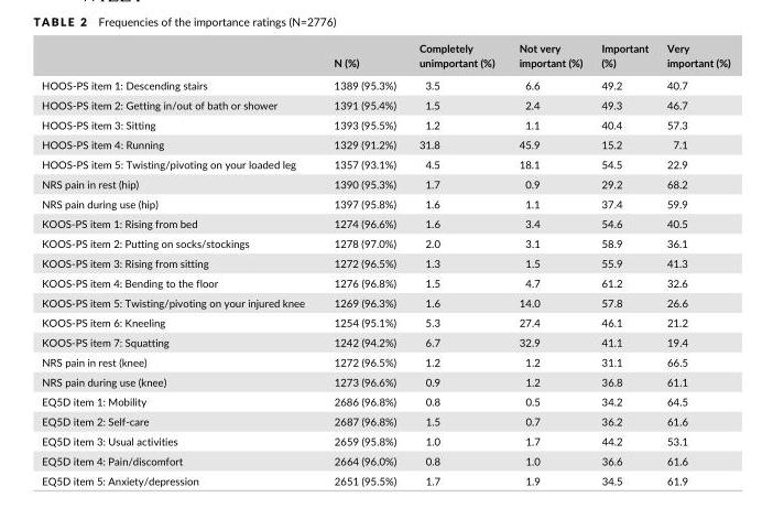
<table><thead><tr><td></td><td>N (%)</td><td>Completely unimportant (%)</td><td>Not very important (%)</td><td>Important (%)</td><td>Very important (%)</td></tr></thead><tbody><tr><td>HOOS- PS item 1: Descending stairs</td><td>1389 (95.3%)</td><td>3.5</td><td>6.6</td><td>49.2</td><td>40.7</td></tr><tr><td>HOOS- PS item 2: Getting in/out of bath or shower</td><td>1391 (95.4%)</td><td>1.5</td><td>2.4</td><td>49.3</td><td>46.7</td></tr><tr><td>HOOS- PS item 3: Sitting</td><td>1393 (95.5%)</td><td>1.2</td><td>1.1</td><td>40.4</td><td>57.3</td></tr><tr><td>HOOS- PS item 4: Running</td><td>1329 (91.2%)</td><td>31.8</td><td>45.9</td><td>15.2</td><td>7.1</td></tr><tr><td>HOOS- PS item 5: Twisting/pivoting on your loaded leg</td><td>1357 (93.1%)</td><td>4.5</td><td>18.1</td><td>54.5</td><td>22.9</td></tr><tr><td>NRS pain in rest (hip)</td><td>1390 (95.3%)</td><td>1.7</td><td>0.9</td><td>29.2</td><td>68.2</td></tr><tr><td>NRS pain during use (hip)</td><td>1397 (95.8%)</td><td>1.6</td><td>1.1</td><td>37.4</td><td>59.9</td></tr><tr><td>KOOS- PS item 1: Rising from bed</td><td>1274 (96.6%)</td><td>1.6</td><td>3.4</td><td>54.6</td><td>40.5</td></tr><tr><td>KOOS- PS item 2: Putting on socks/stockings</td><td>1278 (97.0%)</td><td>2.0</td><td>3.1</td><td>58.9</td><td>36.1</td></tr><tr><td>KOOS- PS item 3: Rising from sitting</td><td>1272 (96.5%)</td><td>1.3</td><td>1.5</td><td>55.9</td><td>41.3</td></tr><tr><td>KOOS- PS item 4: Bending to the floor</td><td>1276 (96.8%)</td><td>1.5</td><td>4.7</td><td>61.2</td><td>32.6</td></tr><tr><td>KOOS- PS item 5: Twisting/pivoting on your injured knee</td><td>1269 (96.3%)</td><td>1.6</td><td>14.0</td><td>57.8</td><td>26.6</td></tr><tr><td>KOOS- PS item 6: Kneeling</td><td>1254 (95.1%)</td><td>5.3</td><td>27.4</td><td>46.1</td><td>21.2</td></tr><tr><td>KOOS- PS item 7: Squatting</td><td>1242 (94.2%)</td><td>6.7</td><td>32.9</td><td>41.1</td><td>19.4</td></tr><tr><td>NRS pain in rest (knee)</td><td>1272 (96.5%)</td><td>1.2</td><td>1.2</td><td>31.1</td><td>66.5</td></tr><tr><td>NRS pain during use (knee)</td><td>1273 (96.6%)</td><td>0.9</td><td>1.2</td><td>36.8</td><td>61.1</td></tr><tr><td>EQ5D item 1: Mobility</td><td>2686 (96.8%)</td><td>0.8</td><td>0.5</td><td>34.2</td><td>64.5</td></tr><tr><td>EQ5D item 2: Self- care</td><td>2687 (96.8%)</td><td>1.5</td><td>0.7</td><td>36.2</td><td>61.6</td></tr><tr><td>EQ5D item 3: Usual activities</td><td>2659 (95.8%)</td><td>1.0</td><td>1.7</td><td>44.2</td><td>53.1</td></tr><tr><td>EQ5D item 4: Pain/discomfort</td><td>2664 (96.0%)</td><td>0.8</td><td>1.0</td><td>36.6</td><td>61.6</td></tr><tr><td>EQ5D item 5: Anxiety/depression</td><td>2651 (95.5%)</td><td>1.7</td><td>1.9</td><td>34.5</td><td>61.9</td></tr></tbody></table>